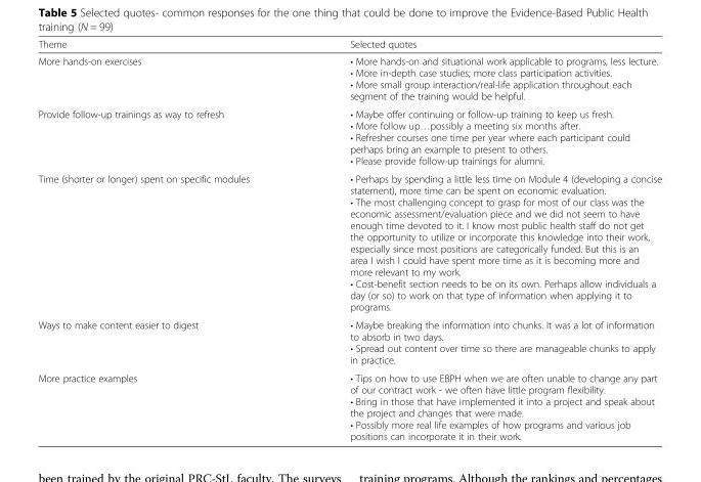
<table><thead><tr><td>Theme</td><td>Selected quotes</td></tr></thead><tbody><tr><td>More hands-on exercises</td><td>• More hands-on and situational work applicable to programs, less lecture. • More in-depth case studies; more class participation activities. • More small group interaction/real-life application throughout each segment of the training would be helpful.</td></tr><tr><td>Provide follow-up trainings as way to refresh</td><td>• Maybe offer continuing or follow-up training to keep us fresh. • More follow up…possibly a meeting six months after. • Refresher courses one time per year where each participant could perhaps bring an example to present to others. • Please provide follow-up trainings for alumni.</td></tr><tr><td>Time (shorter or longer) spent on specific modules</td><td>• Perhaps by spending a little less time on Module 4 (developing a concise statement), more time can be spent on economic evaluation. • The most challenging concept to grasp for most of our class was the economic assessment/evaluation piece and we did not seem to have enough time devoted to it. I know most public health staff do not get the opportunity to utilize or incorporate this knowledge into their work, especially since most positions are categorically funded. But this is an area I wish I could have spent more time as it is becoming more and more relevant to my work. • Cost-benefit section needs to be on its own. Perhaps allow individuals a day (or so) to work on that type of information when applying it to programs.</td></tr><tr><td>Ways to make content easier to digest</td><td>• Maybe breaking the information into chunks. It was a lot of information to absorb in two days. • Spread out content over time so there are manageable chunks to apply in practice.</td></tr><tr><td>More practice examples</td><td>• Tips on how to use EBPH when we are often unable to change any part of our contract work - we often have little program flexibility. • Bring in those that have implemented it into a project and speak about the project and changes that were made. • Possibly more real life examples of how programs and various job positions can incorporate it in their work.</td></tr></tbody></table>